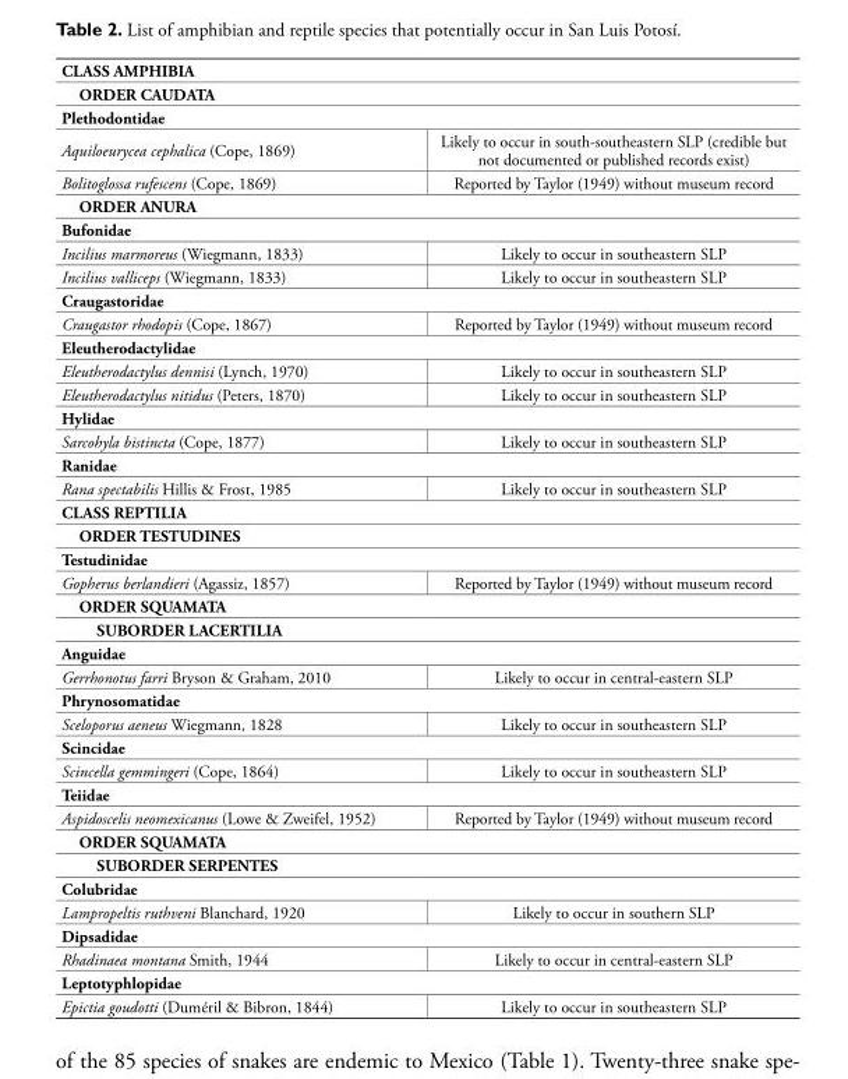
<table><thead><tr><td rowspan="3" colspan="2">CLASS AMPHIBIA ORDER CAUDATA Plethodontidae</td></tr><tr></tr><tr></tr><tr><td>Aquiloeurycea cephalica (Cope, 1869)</td><td>Likely to occur in south-southeastern SLP (credible but not documented or published records exist)</td></tr></thead><tbody><tr><td>Bolitoglossa rufescens (Cope, 1869)</td><td>Reported by Taylor (1949) without museum record</td></tr><tr><td colspan="2">ORDER ANURA</td></tr><tr><td colspan="2">Bufonidae</td></tr><tr><td>Incilius marmoreus (Wiegmann, 1833)</td><td>Likely to occur in southeastern SLP</td></tr><tr><td>Incilius valliceps (Wiegmann, 1833)</td><td>Likely to occur in southeastern SLP</td></tr><tr><td colspan="2">Craugastoridae</td></tr><tr><td>Craugastor rhodopis (Cope, 1867)</td><td>Reported by Taylor (1949) without museum record</td></tr><tr><td colspan="2">Eleutherodactylidae</td></tr><tr><td>Eleutherodactylus dennisi (Lynch, 1970)</td><td>Likely to occur in southeastern SLP</td></tr><tr><td>Eleutherodactylus nitidus (Peters, 1870)</td><td>Likely to occur in southeastern SLP</td></tr><tr><td colspan="2">Hylidae</td></tr><tr><td>Sarcohyla bistincta (Cope, 1877)</td><td>Likely to occur in southeastern SLP</td></tr><tr><td colspan="2">Ranidae</td></tr><tr><td>Rana spectabilis Hillis &amp; Frost, 1985</td><td>Likely to occur in southeastern SLP</td></tr><tr><td colspan="2">CLASS REPTILIA</td></tr><tr><td colspan="2">ORDER TESTUDINES</td></tr><tr><td colspan="2">Testudinidae</td></tr><tr><td>Gopherus berlandieri (Agassiz, 1857)</td><td>Reported by Taylor (1949) without museum record</td></tr><tr><td colspan="2">ORDER SQUAMATA</td></tr><tr><td colspan="2">SUBORDER LACERTILIA</td></tr><tr><td colspan="2">Anguidae</td></tr><tr><td>Gerrhonotus farri Bryson &amp; Graham, 2010</td><td>Likely to occur in central-eastern SLP</td></tr><tr><td colspan="2">Phrynosomatidae</td></tr><tr><td>Sceloporus aeneus Wiegmann, 1828</td><td>Likely to occur in southeastern SLP</td></tr><tr><td colspan="2">Scincidae</td></tr><tr><td>Scincella gemmingeri (Cope, 1864)</td><td>Likely to occur in southeastern SLP</td></tr><tr><td colspan="2">Teiidae</td></tr><tr><td>Aspidoscelis neomexicanus (Lowe &amp; Zweifel, 1952)</td><td>Reported by Taylor (1949) without museum record</td></tr><tr><td colspan="2">ORDER SQUAMATA</td></tr><tr><td colspan="2">SUBORDER SERPENTES</td></tr><tr><td colspan="2">Colubridae</td></tr><tr><td>Lampropeltis ruthveni Blanchard, 1920</td><td>Likely to occur in southern SLP</td></tr><tr><td colspan="2">Dipsadidae</td></tr><tr><td>Rhadinaea montana Smith, 1944</td><td>Likely to occur in central-eastern SLP</td></tr><tr><td colspan="2">Leptotyphlopidae</td></tr><tr><td>Epictia goudotti (Duméril &amp; Bibron, 1844)</td><td>Likely to occur in southeastern SLP</td></tr></tbody></table>